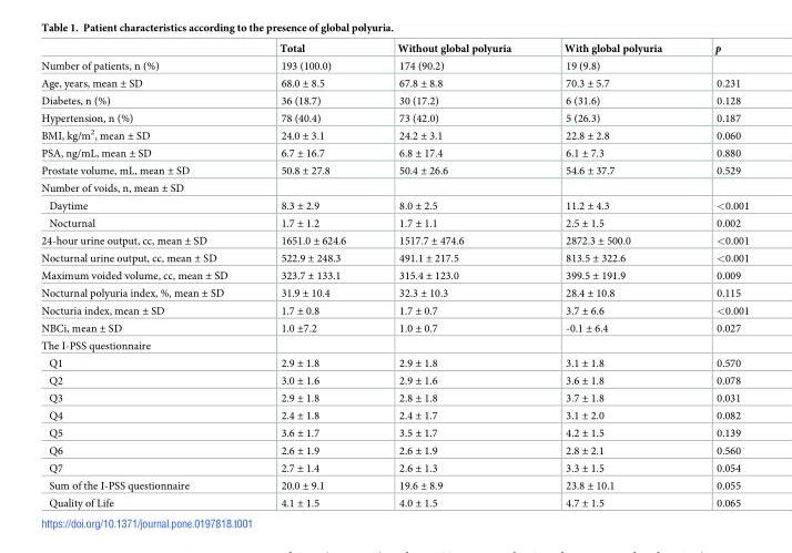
<table><thead><tr><td></td><td>Total</td><td>Without global polyuria</td><td>With global polyuria</td><td>p</td></tr></thead><tbody><tr><td>Number of patients, n (%)</td><td>193 (100.0)</td><td>174 (90.2)</td><td>19 (9.8)</td><td></td></tr><tr><td>Age, years, mean ± SD</td><td>68.0 ± 8.5</td><td>67.8 ± 8.8</td><td>70.3 ± 5.7</td><td>0.231</td></tr><tr><td>Diabetes, n (%)</td><td>36 (18.7)</td><td>30 (17.2)</td><td>6 (31.6)</td><td>0.128</td></tr><tr><td>Hypertension, n (%)</td><td>78 (40.4)</td><td>73 (42.0)</td><td>5 (26.3)</td><td>0.187</td></tr><tr><td>BMI, kg/m<sup>2</sup>, mean ± SD</td><td>24.0 ± 3.1</td><td>24.2 ± 3.1</td><td>22.8 ± 2.8</td><td>0.060</td></tr><tr><td>PSA, ng/mL, mean ± SD</td><td>6.7 ± 16.7</td><td>6.8 ± 17.4</td><td>6.1 ± 7.3</td><td>0.880</td></tr><tr><td>Prostate volume, mL, mean ± SD</td><td>50.8 ± 27.8</td><td>50.4 ± 26.6</td><td>54.6 ± 37.7</td><td>0.529</td></tr><tr><td colspan="5">Number of voids, n, mean ± SD</td></tr><tr><td>Daytime</td><td>8.3 ± 2.9</td><td>8.0 ± 2.5</td><td>11.2 ± 4.3</td><td>&lt;0.001</td></tr><tr><td>Nocturnal</td><td>1.7 ± 1.2</td><td>1.7 ± 1.1</td><td>2.5 ± 1.5</td><td>0.002</td></tr><tr><td>24-hour urine output, cc, mean ± SD</td><td>1651.0 ± 624.6</td><td>1517.7 ± 474.6</td><td>2872.3 ± 500.0</td><td>&lt;0.001</td></tr><tr><td>Nocturnal urine output, cc, mean ± SD</td><td>522.9 ± 248.3</td><td>491.1 ± 217.5</td><td>813.5 ± 322.6</td><td>&lt;0.001</td></tr><tr><td>Maximum voided volume, cc, mean ± SD</td><td>323.7 ± 133.1</td><td>315.4 ± 123.0</td><td>399.5 ± 191.9</td><td>0.009</td></tr><tr><td>Nocturnal polyuria index, %, mean ± SD</td><td>31.9 ± 10.4</td><td>32.3 ± 10.3</td><td>28.4 ± 10.8</td><td>0.115</td></tr><tr><td>Nocturia index, mean ± SD</td><td>1.7 ± 0.8</td><td>1.7 ± 0.7</td><td>3.7 ± 6.6</td><td>&lt;0.001</td></tr><tr><td>NBCi, mean ± SD</td><td>1.0 ±7.2</td><td>1.0 ± 0.7</td><td>-0.1 ± 6.4</td><td>0.027</td></tr><tr><td colspan="5">The I-PSS questionnaire</td></tr><tr><td>Q1</td><td>2.9 ± 1.8</td><td>2.9 ± 1.8</td><td>3.1 ± 1.8</td><td>0.570</td></tr><tr><td>Q2</td><td>3.0 ± 1.6</td><td>2.9 ± 1.6</td><td>3.6 ± 1.8</td><td>0.078</td></tr><tr><td>Q3</td><td>2.9 ± 1.8</td><td>2.8 ± 1.8</td><td>3.7 ± 1.8</td><td>0.031</td></tr><tr><td>Q4</td><td>2.4 ± 1.8</td><td>2.4 ± 1.7</td><td>3.1 ± 2.0</td><td>0.082</td></tr><tr><td>Q5</td><td>3.6 ± 1.7</td><td>3.5 ± 1.7</td><td>4.2 ± 1.5</td><td>0.139</td></tr><tr><td>Q6</td><td>2.6 ± 1.9</td><td>2.6 ± 1.9</td><td>2.8 ± 2.1</td><td>0.560</td></tr><tr><td>Q7</td><td>2.7 ± 1.4</td><td>2.6 ± 1.3</td><td>3.3 ± 1.5</td><td>0.054</td></tr><tr><td>Sum of the I-PSS questionnaire</td><td>20.0 ± 9.1</td><td>19.6 ± 8.9</td><td>23.8 ± 10.1</td><td>0.055</td></tr><tr><td>Quality of Life</td><td>4.1 ± 1.5</td><td>4.0 ± 1.5</td><td>4.7 ± 1.5</td><td>0.065</td></tr></tbody></table>